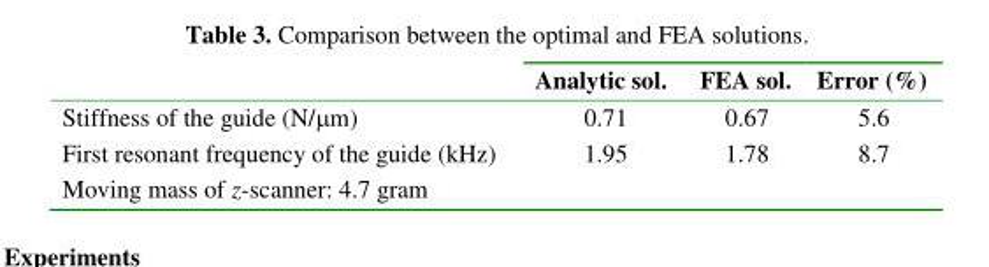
<table><thead><tr><td></td><td>Analytic sol.</td><td>FEA sol.</td><td>Error (%)</td></tr></thead><tbody><tr><td>Stiffness of the guide (N/μm)</td><td>0.71</td><td>0.67</td><td>5.6</td></tr><tr><td>First resonant frequency of the guide (kHz)</td><td>1.95</td><td>1.78</td><td>8.7</td></tr><tr><td>Moving mass of z-scanner: 4.7 gram</td><td></td><td></td><td></td></tr></tbody></table>